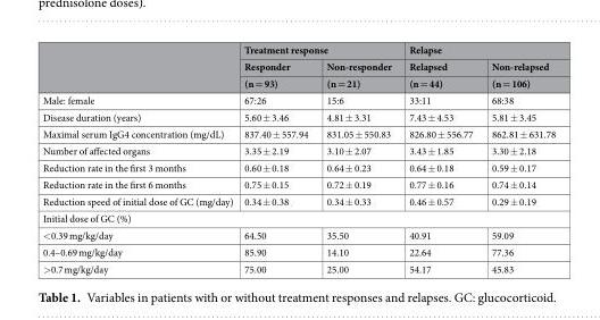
<table><thead><tr><td rowspan="3"></td><td colspan="2">Treatment response</td><td colspan="2">Relapse</td></tr><tr><td rowspan="2">Responder (n = 93)</td><td rowspan="2">Non-responder (n = 21)</td><td rowspan="2">Relapsed (n = 44)</td><td rowspan="2">Non-relapsed (n = 106)</td></tr><tr></tr></thead><tbody><tr><td>Male: female</td><td>67:26</td><td>15:6</td><td>33:11</td><td>68:38</td></tr><tr><td>Disease duration (years)</td><td>5.60 ± 3.46</td><td>4.81 ± 3.31</td><td>7.43 ± 4.53</td><td>5.81 ± 3.45</td></tr><tr><td>Maximal serum IgG4 concentration (mg/dL)</td><td>837.40 ± 557.94</td><td>831.05 ± 550.83</td><td>826.80 ± 556.77</td><td>862.81 ± 631.78</td></tr><tr><td>Number of affected organs</td><td>3.35 ± 2.19</td><td>3.10 ± 2.07</td><td>3.43 ± 1.85</td><td>3.30 ± 2.18</td></tr><tr><td>Reduction rate in the first 3 months</td><td>0.60 ± 0.18</td><td>0.64 ± 0.23</td><td>0.64 ± 0.18</td><td>0.59 ± 0.17</td></tr><tr><td>Reduction rate in the first 6 months</td><td>0.75 ± 0.15</td><td>0.72 ± 0.19</td><td>0.77 ± 0.16</td><td>0.74 ± 0.14</td></tr><tr><td>Reduction speed of initial dose of GC (mg/day)</td><td>0.34 ± 0.38</td><td>0.34 ± 0.33</td><td>0.46 ± 0.57</td><td>0.29 ± 0.19</td></tr><tr><td colspan="5">Initial dose of GC (%)</td></tr><tr><td>&lt;0.39 mg/kg/day</td><td>64.50</td><td>35.50</td><td>40.91</td><td>59.09</td></tr><tr><td>0.4–0.69 mg/kg/day</td><td>85.90</td><td>14.10</td><td>22.64</td><td>77.36</td></tr><tr><td>&gt;0.7 mg/kg/day</td><td>75.00</td><td>25.00</td><td>54.17</td><td>45.83</td></tr></tbody></table>